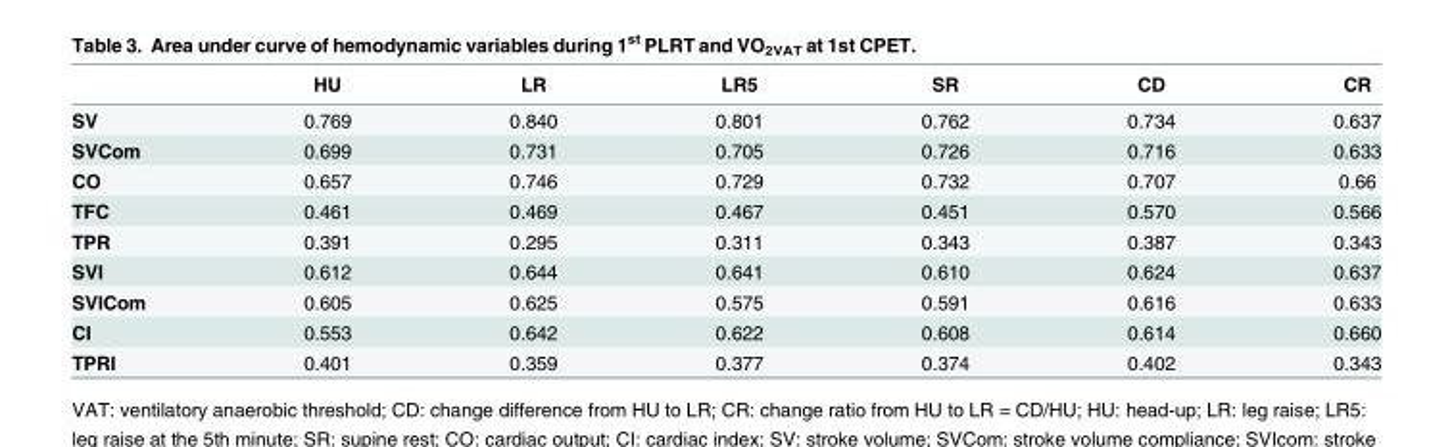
<table><thead><tr><td></td><td>HU</td><td>LR</td><td>LR5</td><td>SR</td><td>CD</td><td>CR</td></tr></thead><tbody><tr><td>SV</td><td>0.769</td><td>0.840</td><td>0.801</td><td>0.762</td><td>0.734</td><td>0.637</td></tr><tr><td>SVCom</td><td>0.699</td><td>0.731</td><td>0.705</td><td>0.726</td><td>0.716</td><td>0.633</td></tr><tr><td>CO</td><td>0.657</td><td>0.746</td><td>0.729</td><td>0.732</td><td>0.707</td><td>0.66</td></tr><tr><td>TFC</td><td>0.461</td><td>0.469</td><td>0.467</td><td>0.451</td><td>0.570</td><td>0.566</td></tr><tr><td>TPR</td><td>0.391</td><td>0.295</td><td>0.311</td><td>0.343</td><td>0.387</td><td>0.343</td></tr><tr><td>SVI</td><td>0.612</td><td>0.644</td><td>0.641</td><td>0.610</td><td>0.624</td><td>0.637</td></tr><tr><td>SVICom</td><td>0.605</td><td>0.625</td><td>0.575</td><td>0.591</td><td>0.616</td><td>0.633</td></tr><tr><td>CI</td><td>0.553</td><td>0.642</td><td>0.622</td><td>0.608</td><td>0.614</td><td>0.660</td></tr><tr><td>TPRI</td><td>0.401</td><td>0.359</td><td>0.377</td><td>0.374</td><td>0.402</td><td>0.343</td></tr></tbody></table>